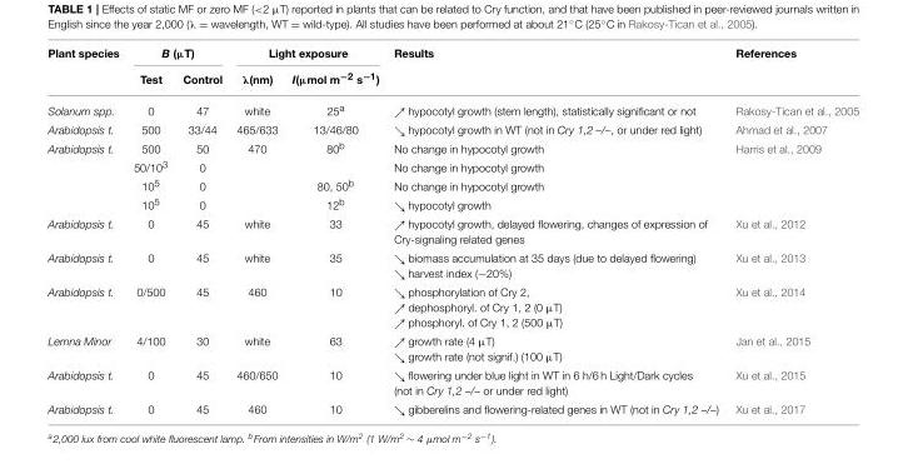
<table><thead><tr><td rowspan="2">Plant species</td><td colspan="2">B (µT)</td><td colspan="2">Light exposure</td><td rowspan="2">Results</td><td rowspan="2">References</td></tr><tr><td>Test</td><td>Control</td><td>λ(nm)</td><td>I(µmol m<sup>−2</sup> s<sup>−1</sup>)</td></tr></thead><tbody><tr><td>Solanum spp.</td><td>0</td><td>47</td><td>white</td><td>25<sup>a</sup></td><td>ր hypocotyl growth (stem length), statistically significant or not</td><td>Rakosy-Tican et al., 2005</td></tr><tr><td>Arabidopsis t.</td><td>500</td><td>33/44</td><td>465/633</td><td>13/46/80</td><td>ց hypocotyl growth in WT (not in Cry 1,2 –/–, or under red light)</td><td>Ahmad et al., 2007</td></tr><tr><td rowspan="4">Arabidopsis t.</td><td>500</td><td>50</td><td>470</td><td>80<sup>b</sup></td><td>No change in hypocotyl growth</td><td>Harris et al., 2009</td></tr><tr><td>50/10<sup>3</sup></td><td>0</td><td></td><td></td><td>No change in hypocotyl growth</td><td></td></tr><tr><td>10<sup>5</sup></td><td>0</td><td></td><td>80, 50<sup>b</sup></td><td>No change in hypocotyl growth</td><td></td></tr><tr><td>10<sup>5</sup></td><td>0</td><td></td><td>12<sup>b</sup></td><td>ց hypocotyl growth</td><td></td></tr><tr><td>Arabidopsis t.</td><td>0</td><td>45</td><td>white</td><td>33</td><td>ր hypocotyl growth, delayed flowering, changes of expression of Cry-signaling related genes</td><td>Xu et al., 2012</td></tr><tr><td>Arabidopsis t.</td><td>0</td><td>45</td><td>white</td><td>35</td><td>ց biomass accumulation at 35 days (due to delayed flowering) ց harvest index (−20%)</td><td>Xu et al., 2013</td></tr><tr><td>Arabidopsis t.</td><td>0/500</td><td>45</td><td>460</td><td>10</td><td>ց phosphorylation of Cry 2, ր dephosphoryl. of Cry 1, 2 (0 µT) ր phosphoryl. of Cry 1, 2 (500 µT)</td><td>Xu et al., 2014</td></tr><tr><td>Lemna Minor</td><td>4/100</td><td>30</td><td>white</td><td>63</td><td>ր growth rate (4 µT) ց growth rate (not signif.) (100 µT)</td><td>Jan et al., 2015</td></tr><tr><td>Arabidopsis t.</td><td>0</td><td>45</td><td>460/650</td><td>10</td><td>ց flowering under blue light in WT in 6 h/6 h Light/Dark cycles (not in Cry 1,2 –/– or under red light)</td><td>Xu et al., 2015</td></tr><tr><td>Arabidopsis t.</td><td>0</td><td>45</td><td>460</td><td>10</td><td>ց gibberelins and flowering-related genes in WT (not in Cry 1,2 –/–)</td><td>Xu et al., 2017</td></tr></tbody></table>